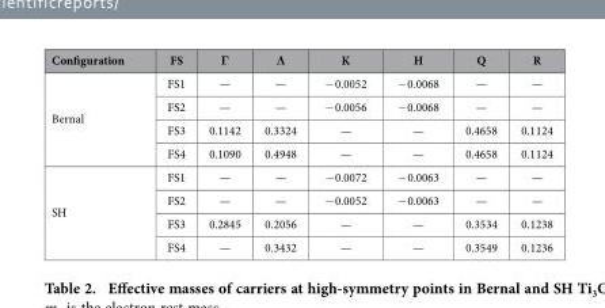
<table><thead><tr><td>Configuration</td><td>FS</td><td>Γ</td><td>Λ</td><td>K</td><td>H</td><td>Q</td><td>R</td></tr></thead><tbody><tr><td rowspan="4">Bernal</td><td>FS1</td><td>—</td><td>—</td><td>− 0.0052</td><td>− 0.0068</td><td>—</td><td>—</td></tr><tr><td>FS2</td><td>—</td><td>—</td><td>− 0.0056</td><td>− 0.0068</td><td>—</td><td>—</td></tr><tr><td>FS3</td><td>0.1142</td><td>0.3324</td><td>—</td><td>—</td><td>0.4658</td><td>0.1124</td></tr><tr><td>FS4</td><td>0.1090</td><td>0.4948</td><td>—</td><td>—</td><td>0.4658</td><td>0.1124</td></tr><tr><td rowspan="4">SH</td><td>FS1</td><td>—</td><td>—</td><td>− 0.0072</td><td>− 0.0063</td><td>—</td><td>—</td></tr><tr><td>FS2</td><td>—</td><td>—</td><td>− 0.0052</td><td>− 0.0063</td><td>—</td><td>—</td></tr><tr><td>FS3</td><td>0.2845</td><td>0.2056</td><td>—</td><td>—</td><td>0.3534</td><td>0.1238</td></tr><tr><td>FS4</td><td>—</td><td>0.3432</td><td>—</td><td>—</td><td>0.3549</td><td>0.1236</td></tr></tbody></table>